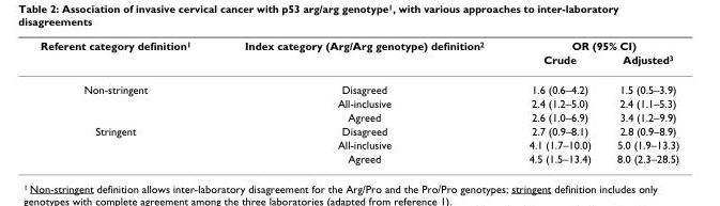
<table><thead><tr><td rowspan="2">Referent category definition<sup>1</sup></td><td rowspan="2">Index category (Arg/Arg genotype) definition<sup>2</sup></td><td colspan="2">OR (95% CI)</td></tr><tr><td>Crude</td><td>Adjusted<sup>3</sup></td></tr></thead><tbody><tr><td rowspan="3">Non-stringent</td><td>Disagreed</td><td>1.6 (0.6–4.2)</td><td>1.5 (0.5–3.9)</td></tr><tr><td>All-inclusive</td><td>2.4 (1.2–5.0)</td><td>2.4 (1.1–5.3)</td></tr><tr><td>Agreed</td><td>2.6 (1.0–6.9)</td><td>3.4 (1.2–9.9)</td></tr><tr><td rowspan="3">Stringent</td><td>Disagreed</td><td>2.7 (0.9–8.1)</td><td>2.8 (0.9–8.9)</td></tr><tr><td>All-inclusive</td><td>4.1 (1.7–10.0)</td><td>5.0 (1.9–13.3)</td></tr><tr><td>Agreed</td><td>4.5 (1.5–13.4)</td><td>8.0 (2.3–28.5)</td></tr></tbody></table>